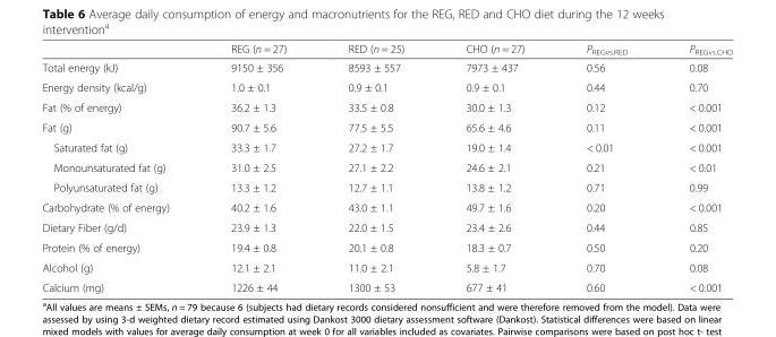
<table><thead><tr><td></td><td>REG (n = 27)</td><td>RED (n = 25)</td><td>CHO (n = 27)</td><td>P<sub>REGvs.RED</sub></td><td>P<sub>REGvs.CHO</sub></td></tr></thead><tbody><tr><td>Total energy (kJ)</td><td>9150 ± 356</td><td>8593 ± 557</td><td>7973 ± 437</td><td>0.56</td><td>0.08</td></tr><tr><td>Energy density (kcal/g)</td><td>1.0 ± 0.1</td><td>0.9 ± 0.1</td><td>0.9 ± 0.1</td><td>0.44</td><td>0.70</td></tr><tr><td>Fat (% of energy)</td><td>36.2 ± 1.3</td><td>33.5 ± 0.8</td><td>30.0 ± 1.3</td><td>0.12</td><td>&lt; 0.001</td></tr><tr><td>Fat (g)</td><td>90.7 ± 5.6</td><td>77.5 ± 5.5</td><td>65.6 ± 4.6</td><td>0.11</td><td>&lt; 0.001</td></tr><tr><td>Saturated fat (g)</td><td>33.3 ± 1.7</td><td>27.2 ± 1.7</td><td>19.0 ± 1.4</td><td>&lt; 0.01</td><td>&lt; 0.001</td></tr><tr><td>Monounsaturated fat (g)</td><td>31.0 ± 2.5</td><td>27.1 ± 2.2</td><td>24.6 ± 2.1</td><td>0.21</td><td>&lt; 0.01</td></tr><tr><td>Polyunsaturated fat (g)</td><td>13.3 ± 1.2</td><td>12.7 ± 1.1</td><td>13.8 ± 1.2</td><td>0.71</td><td>0.99</td></tr><tr><td>Carbohydrate (% of energy)</td><td>40.2 ± 1.6</td><td>43.0 ± 1.1</td><td>49.7 ± 1.6</td><td>0.20</td><td>&lt; 0.001</td></tr><tr><td>Dietary Fiber (g/d)</td><td>23.9 ± 1.3</td><td>22.0 ± 1.5</td><td>23.4 ± 2.6</td><td>0.44</td><td>0.85</td></tr><tr><td>Protein (% of energy)</td><td>19.4 ± 0.8</td><td>20.1 ± 0.8</td><td>18.3 ± 0.7</td><td>0.50</td><td>0.20</td></tr><tr><td>Alcohol (g)</td><td>12.1 ± 2.1</td><td>11.0 ± 2.1</td><td>5.8 ± 1.7</td><td>0.70</td><td>0.08</td></tr><tr><td>Calcium (mg)</td><td>1226 ± 44</td><td>1300 ± 53</td><td>677 ± 41</td><td>0.60</td><td>&lt; 0.001</td></tr></tbody></table>